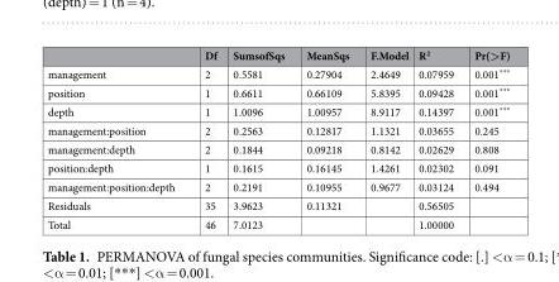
<table><thead><tr><td></td><td>Df</td><td>SumsofSqs</td><td>MeanSqs</td><td>F.Model</td><td>R<sup>2</sup></td><td>Pr(&gt;F)</td></tr></thead><tbody><tr><td>management</td><td>2</td><td>0.5581</td><td>0.27904</td><td>2.4649</td><td>0.07959</td><td>0.001***</td></tr><tr><td>position</td><td>1</td><td>0.6611</td><td>0.66109</td><td>5.8395</td><td>0.09428</td><td>0.001***</td></tr><tr><td>depth</td><td>1</td><td>1.0096</td><td>1.00957</td><td>8.9117</td><td>0.14397</td><td>0.001***</td></tr><tr><td>management:position</td><td>2</td><td>0.2563</td><td>0.12817</td><td>1.1321</td><td>0.03655</td><td>0.245</td></tr><tr><td>management:depth</td><td>2</td><td>0.1844</td><td>0.09218</td><td>0.8142</td><td>0.02629</td><td>0.808</td></tr><tr><td>position:depth</td><td>1</td><td>0.1615</td><td>0.16145</td><td>1.4261</td><td>0.02302</td><td>0.091</td></tr><tr><td>management:position:depth</td><td>2</td><td>0.2191</td><td>0.10955</td><td>0.9677</td><td>0.03124</td><td>0.494</td></tr><tr><td>Residuals</td><td>35</td><td>3.9623</td><td>0.11321</td><td></td><td>0.56505</td><td></td></tr><tr><td>Total</td><td>46</td><td>7.0123</td><td></td><td></td><td>1.00000</td><td></td></tr></tbody></table>